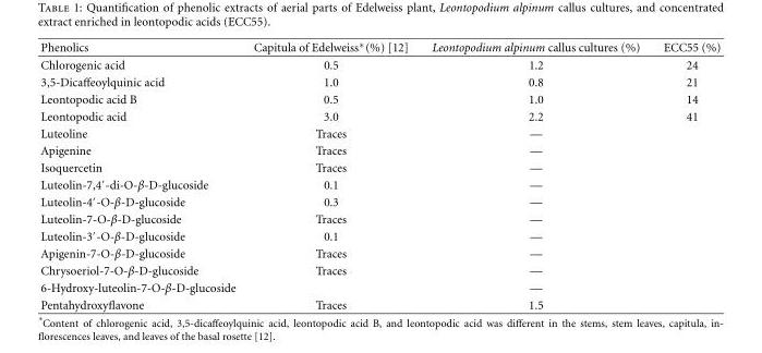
<table><thead><tr><td>Phenolics</td><td>Capitula of Edelweiss∗(%) [12]</td><td>Leontopodium alpinum callus cultures (%)</td><td>ECC55 (%)</td></tr></thead><tbody><tr><td>Chlorogenic acid</td><td>0.5</td><td>1.2</td><td>24</td></tr><tr><td>3,5-Dicaffeoylquinic acid</td><td>1.0</td><td>0.8</td><td>21</td></tr><tr><td>Leontopodic acid B</td><td>0.5</td><td>1.0</td><td>14</td></tr><tr><td>Leontopodic acid</td><td>3.0</td><td>2.2</td><td>41</td></tr><tr><td>Luteoline</td><td>Traces</td><td>—</td><td></td></tr><tr><td>Apigenine</td><td>Traces</td><td>—</td><td></td></tr><tr><td>Isoquercetin</td><td>Traces</td><td>—</td><td></td></tr><tr><td>Luteolin-7,4′-di-O-β-D-glucoside</td><td>0.1</td><td>—</td><td></td></tr><tr><td>Luteolin-4′-O-β-D-glucoside</td><td>0.3</td><td>—</td><td></td></tr><tr><td>Luteolin-7-O-β-D-glucoside</td><td>Traces</td><td>—</td><td></td></tr><tr><td>Luteolin-3′-O-β-D-glucoside</td><td>0.1</td><td>—</td><td></td></tr><tr><td>Apigenin-7-O-β-D-glucoside</td><td>Traces</td><td>—</td><td></td></tr><tr><td>Chrysoeriol-7-O-β-D-glucoside</td><td>Traces</td><td>—</td><td></td></tr><tr><td>6-Hydroxy-luteolin-7-O-β-D-glucoside</td><td></td><td>—</td><td></td></tr><tr><td>Pentahydroxyflavone</td><td>Traces</td><td>1.5</td><td></td></tr></tbody></table>